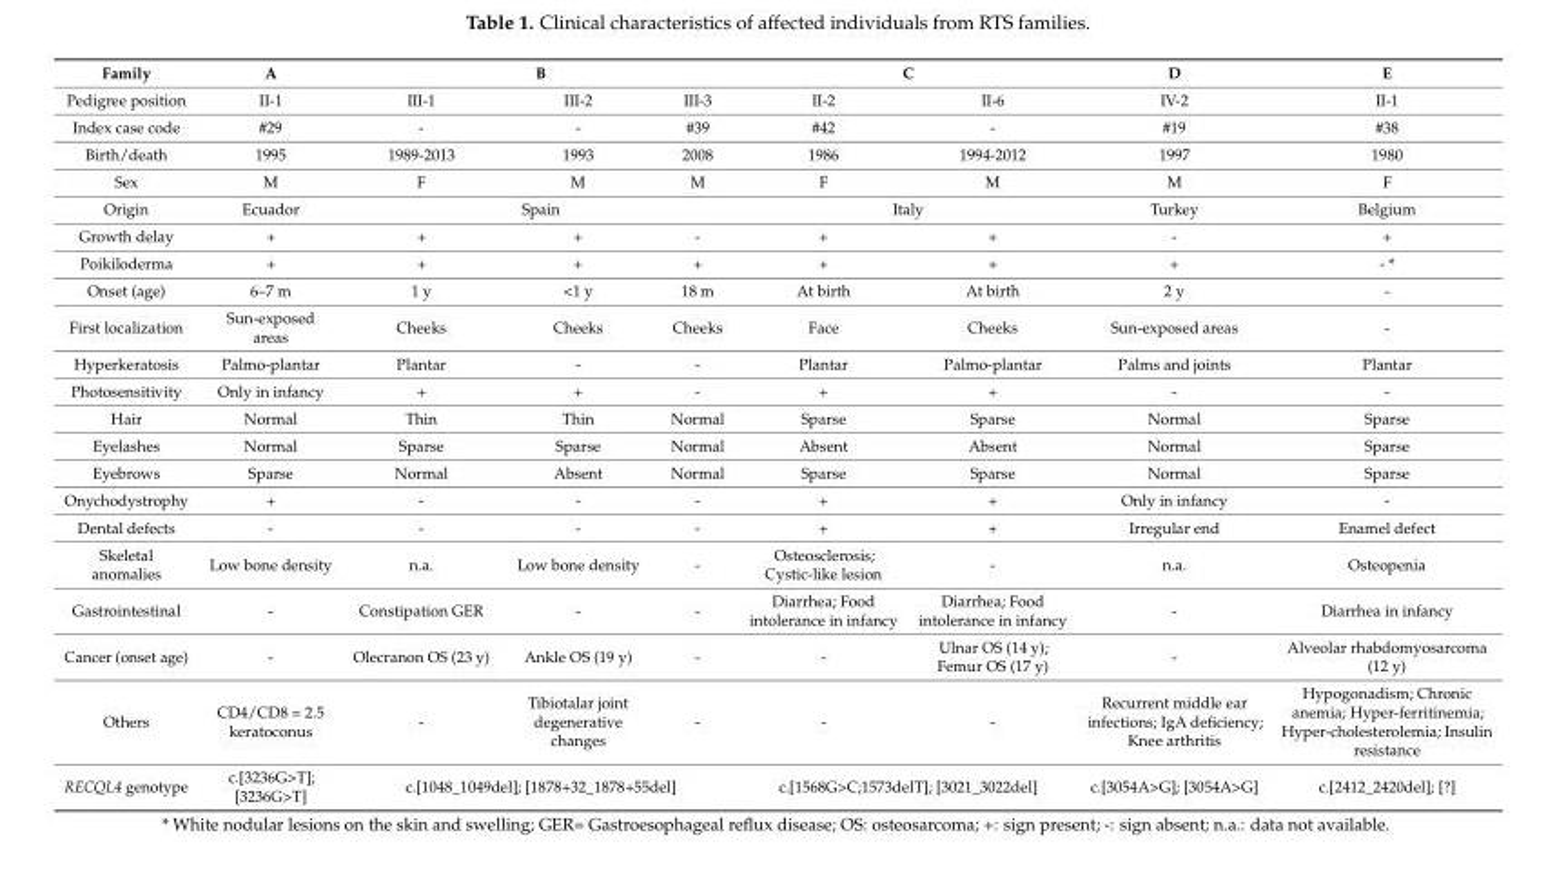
<table><thead><tr><td rowspan="2">Family Pedigree position</td><td rowspan="2">A II-1</td><td colspan="3">B</td><td colspan="2">C</td><td rowspan="2">D IV-2</td><td rowspan="2">E II-1</td></tr><tr><td>III-1</td><td>III-2</td><td>III-3</td><td>II-2</td><td>II-6</td></tr></thead><tbody><tr><td>Index case code</td><td>#29</td><td>-</td><td>-</td><td>#39</td><td>#42</td><td>-</td><td>#19</td><td>#38</td></tr><tr><td>Birth/death</td><td>1995</td><td>1989-2013</td><td>1993</td><td>2008</td><td>1986</td><td>1994-2012</td><td>1997</td><td>1980</td></tr><tr><td>Sex</td><td>M</td><td>F</td><td>M</td><td>M</td><td>F</td><td>M</td><td>M</td><td>F</td></tr><tr><td>Origin</td><td>Ecuador</td><td colspan="3">Spain</td><td colspan="2">Italy</td><td>Turkey</td><td>Belgium</td></tr><tr><td>Growth delay</td><td>+</td><td>+</td><td>+</td><td>-</td><td>+</td><td>+</td><td>-</td><td>+</td></tr><tr><td>Poikiloderma</td><td>+</td><td>+</td><td>+</td><td>+</td><td>+</td><td>+</td><td>+</td><td>- *</td></tr><tr><td>Onset (age)</td><td>6–7 m</td><td>1 y</td><td>&lt;1 y</td><td>18 m</td><td>At birth</td><td>At birth</td><td>2 y</td><td>-</td></tr><tr><td>First localization</td><td>Sun-exposed areas</td><td>Cheeks</td><td>Cheeks</td><td>Cheeks</td><td>Face</td><td>Cheeks</td><td>Sun-exposed areas</td><td>-</td></tr><tr><td>Hyperkeratosis</td><td>Palmo-plantar</td><td>Plantar</td><td>-</td><td>-</td><td>Plantar</td><td>Palmo-plantar</td><td>Palms and joints</td><td>Plantar</td></tr><tr><td>Photosensitivity</td><td>Only in infancy</td><td>+</td><td>+</td><td>-</td><td>+</td><td>+</td><td>-</td><td>-</td></tr><tr><td>Hair</td><td>Normal</td><td>Thin</td><td>Thin</td><td>Normal</td><td>Sparse</td><td>Sparse</td><td>Normal</td><td>Sparse</td></tr><tr><td>Eyelashes</td><td>Normal</td><td>Sparse</td><td>Sparse</td><td>Normal</td><td>Absent</td><td>Absent</td><td>Normal</td><td>Sparse</td></tr><tr><td>Eyebrows</td><td>Sparse</td><td>Normal</td><td>Absent</td><td>Normal</td><td>Sparse</td><td>Sparse</td><td>Normal</td><td>Sparse</td></tr><tr><td>Onychodystrophy</td><td>+</td><td>-</td><td>-</td><td>-</td><td>+</td><td>+</td><td>Only in infancy</td><td>-</td></tr><tr><td>Dental defects</td><td>-</td><td>-</td><td>-</td><td>-</td><td>+</td><td>+</td><td>Irregular end</td><td>Enamel defect</td></tr><tr><td>Skeletal anomalies</td><td>Low bone density</td><td>n.a.</td><td>Low bone density</td><td>-</td><td>Osteosclerosis; Cystic-like lesion</td><td>-</td><td>n.a.</td><td>Osteopenia</td></tr><tr><td>Gastrointestinal</td><td>-</td><td>Constipation GER</td><td>-</td><td>-</td><td>Diarrhea; Food intolerance in infancy</td><td>Diarrhea; Food intolerance in infancy</td><td>-</td><td>Diarrhea in infancy</td></tr><tr><td>Cancer (onset age)</td><td>-</td><td>Olecranon OS (23 y)</td><td>Ankle OS (19 y)</td><td>-</td><td>-</td><td>Ulnar OS (14 y); Femur OS (17 y)</td><td>-</td><td>Alveolar rhabdomyosarcoma (12 y)</td></tr><tr><td>Others</td><td>CD4/CD8 = 2.5 keratoconus</td><td>-</td><td>Tibiotalar joint degenerative changes</td><td>-</td><td>-</td><td>-</td><td>Recurrent middle ear infections; IgA deficiency; Knee arthritis</td><td>Hypogonadism; Chronic anemia; Hyper-ferritinemia; Hyper-cholesterolemia; Insulin resistance</td></tr><tr><td>RECQL4 genotype</td><td>c.[3236G&gt;T]; [3236G&gt;T]</td><td colspan="3">c.[1048_1049del]; [1878+32_1878+55del]</td><td colspan="2">c.[1568G&gt;C;1573delT]; [3021_3022del]</td><td>c.[3054A&gt;G]; [3054A&gt;G]</td><td>c.[2412_2420del]; [?]</td></tr></tbody></table>